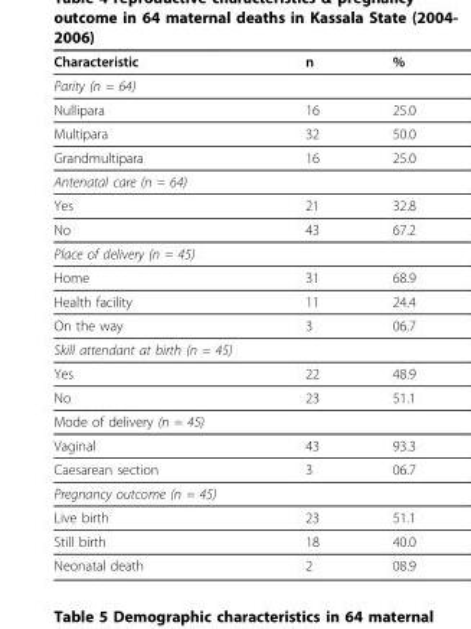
<table><thead><tr><td>Characteristic</td><td>n</td><td>%</td></tr></thead><tbody><tr><td colspan="3">Parity (n = 64)</td></tr><tr><td>Nullipara</td><td>16</td><td>25.0</td></tr><tr><td>Multipara</td><td>32</td><td>50.0</td></tr><tr><td>Grandmultipara</td><td>16</td><td>25.0</td></tr><tr><td colspan="3">Antenatal care (n = 64)</td></tr><tr><td>Yes</td><td>21</td><td>32.8</td></tr><tr><td>No</td><td>43</td><td>67.2</td></tr><tr><td colspan="3">Place of delivery (n = 45)</td></tr><tr><td>Home</td><td>31</td><td>68.9</td></tr><tr><td>Health facility</td><td>11</td><td>24.4</td></tr><tr><td>On the way</td><td>3</td><td>06.7</td></tr><tr><td colspan="3">Skill attendant at birth (n = 45)</td></tr><tr><td>Yes</td><td>22</td><td>48.9</td></tr><tr><td>No</td><td>23</td><td>51.1</td></tr><tr><td colspan="3">Mode of delivery (n = 45)</td></tr><tr><td>Vaginal</td><td>43</td><td>93.3</td></tr><tr><td>Caesarean section</td><td>3</td><td>06.7</td></tr><tr><td colspan="3">Pregnancy outcome (n = 45)</td></tr><tr><td>Live birth</td><td>23</td><td>51.1</td></tr><tr><td>Still birth</td><td>18</td><td>40.0</td></tr><tr><td>Neonatal death</td><td>2</td><td>08.9</td></tr></tbody></table>